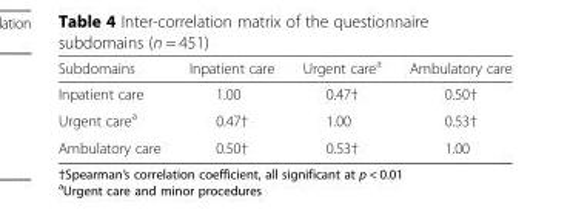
<table><thead><tr><td>Subdomains</td><td>Inpatient care</td><td>Urgent care<sup>a</sup></td><td>Ambulatory care</td></tr></thead><tbody><tr><td>Inpatient care</td><td>1.00</td><td>0.47†</td><td>0.50†</td></tr><tr><td>Urgent care<sup>a</sup></td><td>0.47†</td><td>1.00</td><td>0.53†</td></tr><tr><td>Ambulatory care</td><td>0.50†</td><td>0.53†</td><td>1.00</td></tr></tbody></table>